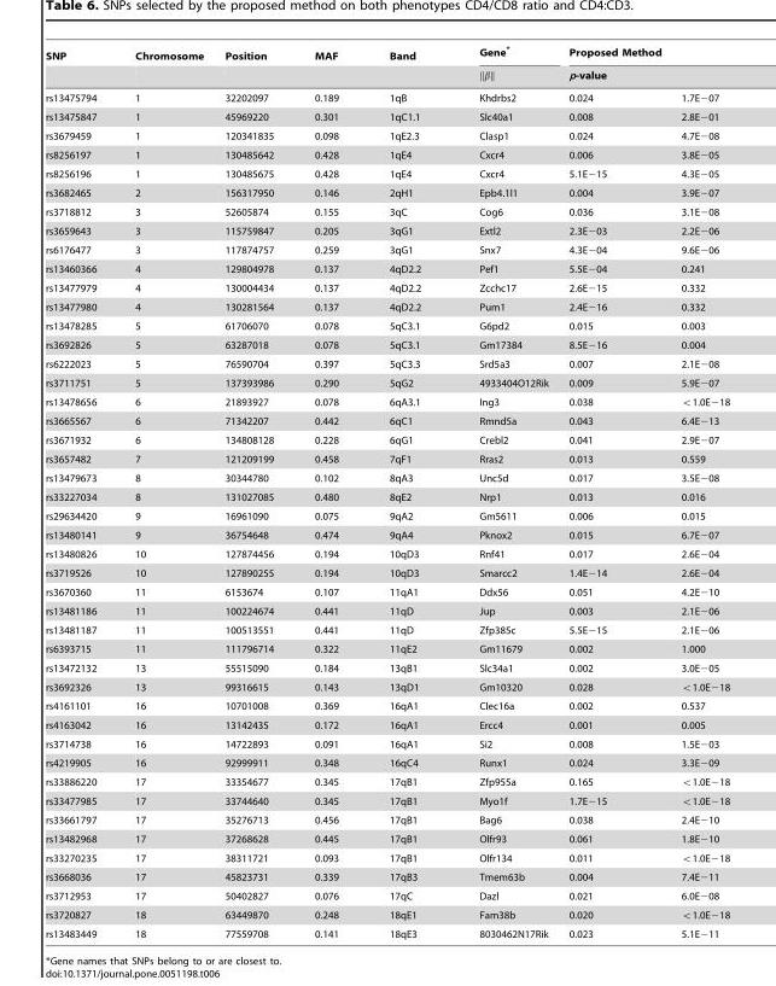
<table><thead><tr><td rowspan="3">SNP rs13475794</td><td rowspan="3">Chromosome 1</td><td rowspan="3">Position 32202097</td><td rowspan="3">MAF 0.189</td><td rowspan="3">Band 1qB</td><td rowspan="3">Gene* DDbDD Khdrbs2</td><td rowspan="2" colspan="2">Proposed Method p-value</td></tr><tr></tr><tr><td>0.024</td><td>1.7E−07</td></tr></thead><tbody><tr><td>rs13475847</td><td>1</td><td>45969220</td><td>0.301</td><td>1qC1.1</td><td>Slc40a1</td><td>0.008</td><td>2.8E−01</td></tr><tr><td>rs3679459</td><td>1</td><td>120341835</td><td>0.098</td><td>1qE2.3</td><td>Clasp1</td><td>0.024</td><td>4.7E−08</td></tr><tr><td>rs8256197</td><td>1</td><td>130485642</td><td>0.428</td><td>1qE4</td><td>Cxcr4</td><td>0.006</td><td>3.8E−05</td></tr><tr><td>rs8256196</td><td>1</td><td>130485675</td><td>0.428</td><td>1qE4</td><td>Cxcr4</td><td>5.1E−15</td><td>4.3E−05</td></tr><tr><td>rs3682465</td><td>2</td><td>156317950</td><td>0.146</td><td>2qH1</td><td>Epb4.1l1</td><td>0.004</td><td>3.9E−07</td></tr><tr><td>rs3718812</td><td>3</td><td>52605874</td><td>0.155</td><td>3qC</td><td>Cog6</td><td>0.036</td><td>3.1E−08</td></tr><tr><td>rs3659643</td><td>3</td><td>115759847</td><td>0.205</td><td>3qG1</td><td>Extl2</td><td>2.3E−03</td><td>2.2E−06</td></tr><tr><td>rs6176477</td><td>3</td><td>117874757</td><td>0.259</td><td>3qG1</td><td>Snx7</td><td>4.3E−04</td><td>9.6E−06</td></tr><tr><td>rs13460366</td><td>4</td><td>129804978</td><td>0.137</td><td>4qD2.2</td><td>Pef1</td><td>5.5E−04</td><td>0.241</td></tr><tr><td>rs13477979</td><td>4</td><td>130004434</td><td>0.137</td><td>4qD2.2</td><td>Zcchc17</td><td>2.6E−15</td><td>0.332</td></tr><tr><td>rs13477980</td><td>4</td><td>130281564</td><td>0.137</td><td>4qD2.2</td><td>Pum1</td><td>2.4E−16</td><td>0.332</td></tr><tr><td>rs13478285</td><td>5</td><td>61706070</td><td>0.078</td><td>5qC3.1</td><td>G6pd2</td><td>0.015</td><td>0.003</td></tr><tr><td>rs3692826</td><td>5</td><td>63287018</td><td>0.078</td><td>5qC3.1</td><td>Gm17384</td><td>8.5E−16</td><td>0.004</td></tr><tr><td>rs6222023</td><td>5</td><td>76590704</td><td>0.397</td><td>5qC3.3</td><td>Srd5a3</td><td>0.007</td><td>2.1E−08</td></tr><tr><td>rs3711751</td><td>5</td><td>137393986</td><td>0.290</td><td>5qG2</td><td>4933404O12Rik</td><td>0.009</td><td>5.9E−07</td></tr><tr><td>rs13478656</td><td>6</td><td>21893927</td><td>0.078</td><td>6qA3.1</td><td>Ing3</td><td>0.038</td><td>v1.0E218</td></tr><tr><td>rs3665567</td><td>6</td><td>71342207</td><td>0.442</td><td>6qC1</td><td>Rmnd5a</td><td>0.043</td><td>6.4E−13</td></tr><tr><td>rs3671932</td><td>6</td><td>134808128</td><td>0.228</td><td>6qG1</td><td>Crebl2</td><td>0.041</td><td>2.9E−07</td></tr><tr><td>rs3657482</td><td>7</td><td>121209199</td><td>0.458</td><td>7qF1</td><td>Rras2</td><td>0.013</td><td>0.559</td></tr><tr><td>rs13479673</td><td>8</td><td>30344780</td><td>0.102</td><td>8qA3</td><td>Unc5d</td><td>0.017</td><td>3.5E−08</td></tr><tr><td>rs33227034</td><td>8</td><td>131027085</td><td>0.480</td><td>8qE2</td><td>Nrp1</td><td>0.013</td><td>0.016</td></tr><tr><td>rs29634420</td><td>9</td><td>16961090</td><td>0.075</td><td>9qA2</td><td>Gm5611</td><td>0.006</td><td>0.015</td></tr><tr><td>rs13480141</td><td>9</td><td>36754648</td><td>0.474</td><td>9qA4</td><td>Pknox2</td><td>0.015</td><td>6.7E−07</td></tr><tr><td>rs13480826</td><td>10</td><td>127874456</td><td>0.194</td><td>10qD3</td><td>Rnf41</td><td>0.017</td><td>2.6E−04</td></tr><tr><td>rs3719526</td><td>10</td><td>127890255</td><td>0.194</td><td>10qD3</td><td>Smarcc2</td><td>1.4E−14</td><td>2.6E−04</td></tr><tr><td>rs3670360</td><td>11</td><td>6153674</td><td>0.107</td><td>11qA1</td><td>Ddx56</td><td>0.051</td><td>4.2E−10</td></tr><tr><td>rs13481186</td><td>11</td><td>100224674</td><td>0.441</td><td>11qD</td><td>Jup</td><td>0.003</td><td>2.1E−06</td></tr><tr><td>rs13481187</td><td>11</td><td>100513551</td><td>0.441</td><td>11qD</td><td>Zfp385c</td><td>5.5E−15</td><td>2.1E−06</td></tr><tr><td>rs6393715</td><td>11</td><td>111796714</td><td>0.322</td><td>11qE2</td><td>Gm11679</td><td>0.002</td><td>1.000</td></tr><tr><td>rs13472132</td><td>13</td><td>55515090</td><td>0.184</td><td>13qB1</td><td>Slc34a1</td><td>0.002</td><td>3.0E−05</td></tr><tr><td>rs3692326</td><td>13</td><td>99316615</td><td>0.143</td><td>13qD1</td><td>Gm10320</td><td>0.028</td><td>v1.0E218</td></tr><tr><td>rs4161101</td><td>16</td><td>10701008</td><td>0.369</td><td>16qA1</td><td>Clec16a</td><td>0.002</td><td>0.537</td></tr><tr><td>rs4163042</td><td>16</td><td>13142435</td><td>0.172</td><td>16qA1</td><td>Ercc4</td><td>0.001</td><td>0.005</td></tr><tr><td>rs3714738</td><td>16</td><td>14722893</td><td>0.091</td><td>16qA1</td><td>Si2</td><td>0.008</td><td>1.5E−03</td></tr><tr><td>rs4219905</td><td>16</td><td>92999911</td><td>0.348</td><td>16qC4</td><td>Runx1</td><td>0.024</td><td>3.3E−09</td></tr><tr><td>rs33886220</td><td>17</td><td>33354677</td><td>0.345</td><td>17qB1</td><td>Zfp955a</td><td>0.165</td><td>v1.0E218</td></tr><tr><td>rs33477985</td><td>17</td><td>33744640</td><td>0.345</td><td>17qB1</td><td>Myo1f</td><td>1.7E−15</td><td>v1.0E218</td></tr><tr><td>rs33661797</td><td>17</td><td>35276713</td><td>0.456</td><td>17qB1</td><td>Bag6</td><td>0.038</td><td>2.4E−10</td></tr><tr><td>rs13482968</td><td>17</td><td>37268628</td><td>0.445</td><td>17qB1</td><td>Olfr93</td><td>0.061</td><td>1.8E−10</td></tr><tr><td>rs33270235</td><td>17</td><td>38311721</td><td>0.093</td><td>17qB1</td><td>Olfr134</td><td>0.011</td><td>v1.0E218</td></tr><tr><td>rs3668036</td><td>17</td><td>45823731</td><td>0.339</td><td>17qB3</td><td>Tmem63b</td><td>0.004</td><td>7.4E−11</td></tr><tr><td>rs3712953</td><td>17</td><td>50402827</td><td>0.076</td><td>17qC</td><td>Dazl</td><td>0.021</td><td>6.0E−08</td></tr><tr><td>rs3720827</td><td>18</td><td>63449870</td><td>0.248</td><td>18qE1</td><td>Fam38b</td><td>0.020</td><td>v1.0E218</td></tr><tr><td>rs13483449</td><td>18</td><td>77559708</td><td>0.141</td><td>18qE3</td><td>8030462N17Rik</td><td>0.023</td><td>5.1E−11</td></tr></tbody></table>